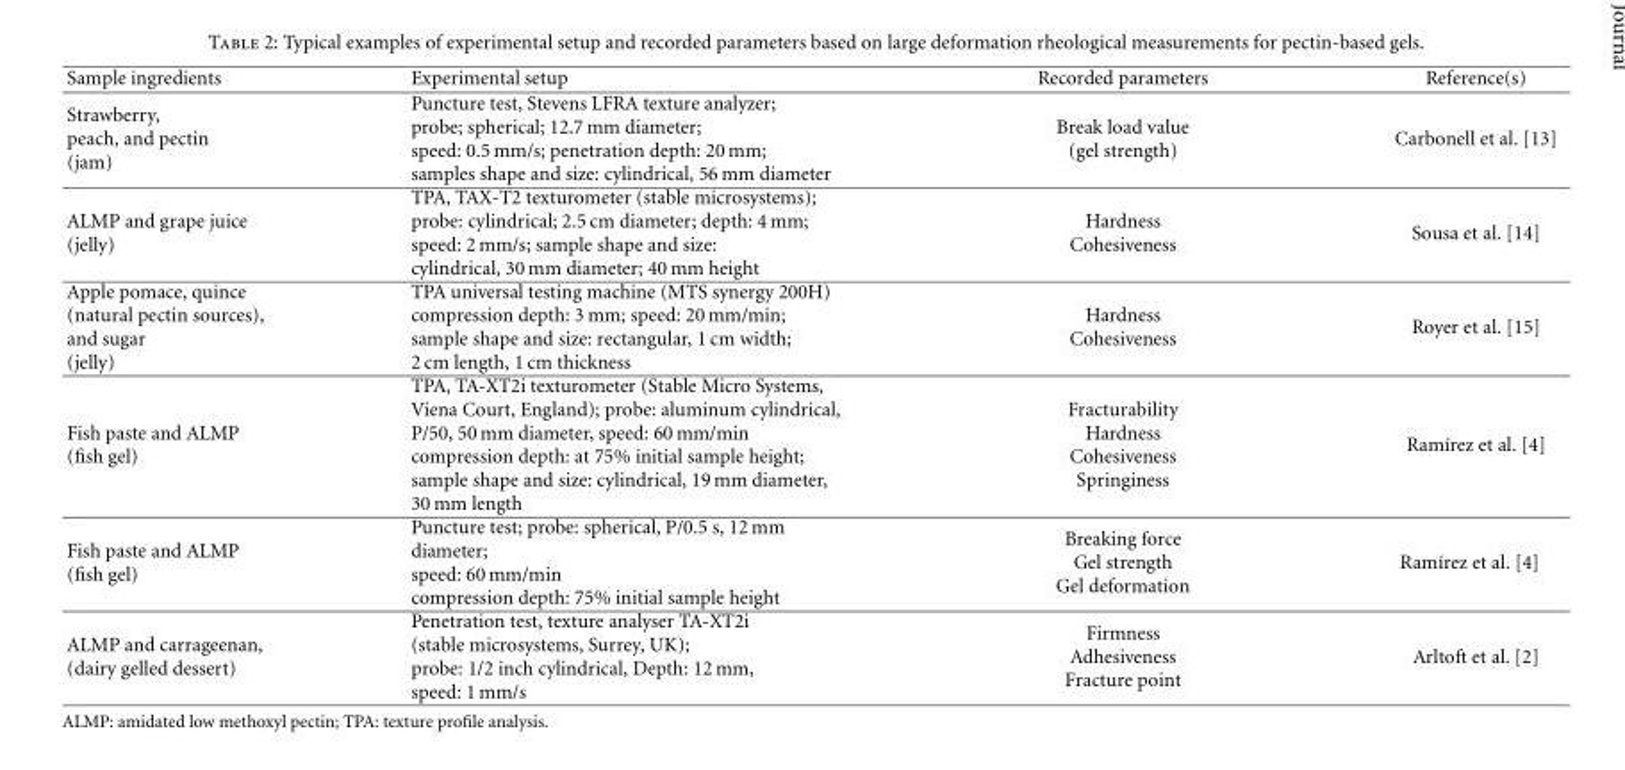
<table><thead><tr><td>Sample ingredients</td><td>Experimental setup</td><td>Recorded parameters</td><td>Reference(s)</td></tr></thead><tbody><tr><td>Strawberry, peach, and pectin (jam)</td><td>Puncture test, Stevens LFRA texture analyzer; probe; spherical; 12.7 mm diameter; speed: 0.5 mm/s; penetration depth: 20 mm; samples shape and size: cylindrical, 56 mm diameter</td><td>Break load value (gel strength)</td><td>Carbonell et al. [13]</td></tr><tr><td>ALMP and grape juice (jelly)</td><td>TPA, TAX-T2 texturometer (stable microsystems); probe: cylindrical; 2.5 cm diameter; depth: 4 mm; speed: 2 mm/s; sample shape and size: cylindrical, 30 mm diameter; 40 mm height</td><td>Hardness Cohesiveness</td><td>Sousa et al. [14]</td></tr><tr><td>Apple pomace, quince (natural pectin sources), and sugar (jelly)</td><td>TPA universal testing machine (MTS synergy 200H) compression depth: 3 mm; speed: 20 mm/min; sample shape and size: rectangular, 1 cm width; 2 cm length, 1 cm thickness</td><td>Hardness Cohesiveness</td><td>Royer et al. [15]</td></tr><tr><td>Fish paste and ALMP (fish gel)</td><td>TPA, TA-XT2i texturometer (Stable Micro Systems, Viena Court, England); probe: aluminum cylindrical, P/50, 50 mm diameter, speed: 60 mm/min compression depth: at 75% initial sample height; sample shape and size: cylindrical, 19 mm diameter, 30 mm length</td><td>Fracturability Hardness Cohesiveness Springiness</td><td>Ram´ırez et al. [4]</td></tr><tr><td>Fish paste and ALMP (fish gel)</td><td>Puncture test; probe: spherical, P/0.5 s, 12 mm diameter; speed: 60 mm/min compression depth: 75% initial sample height</td><td>Breaking force Gel strength Gel deformation</td><td>Ram´ırez et al. [4]</td></tr><tr><td>ALMP and carrageenan, (dairy gelled dessert)</td><td>Penetration test, texture analyser TA-XT2i (stable microsystems, Surrey, UK); probe: 1/2 inch cylindrical, Depth: 12 mm, speed: 1 mm/s</td><td>Firmness Adhesiveness Fracture point</td><td>Arltoft et al. [2]</td></tr></tbody></table>